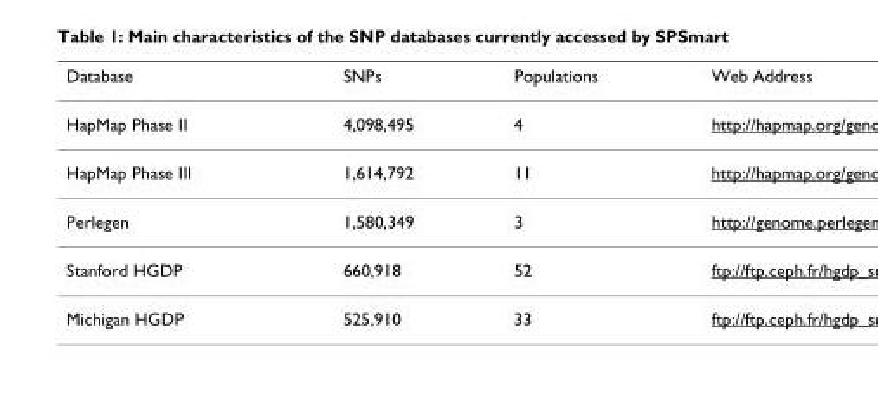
<table><thead><tr><td>Database</td><td>SNPs</td><td>Populations</td><td>Web Address</td></tr></thead><tbody><tr><td>HapMap Phase II</td><td>4,098,495</td><td>4</td><td></td></tr><tr><td>HapMap Phase III</td><td>1,614,792</td><td>11</td><td></td></tr><tr><td>Perlegen</td><td>1,580,349</td><td>3</td><td></td></tr><tr><td>Stanford HGDP</td><td>660,918</td><td>52</td><td></td></tr><tr><td>Michigan HGDP</td><td>525,910</td><td>33</td><td></td></tr></tbody></table>